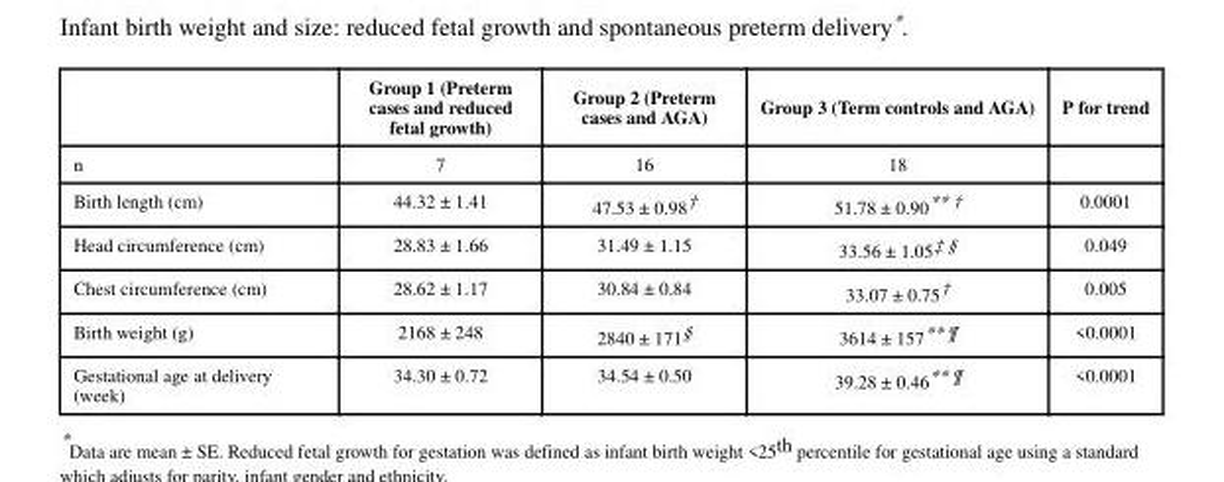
<table><thead><tr><td></td><td>Group 1 (Preterm cases and reduced fetal growth)</td><td>Group 2 (Preterm cases and AGA)</td><td>Group 3 (Term controls and AGA)</td><td>P for trend</td></tr></thead><tbody><tr><td>n</td><td>7</td><td>16</td><td>18</td><td></td></tr><tr><td>Birth length (cm)</td><td>44.32 ± 1.41</td><td>47.53 ± 0.98†</td><td>51.78 ± 0.90** †</td><td>0.0001</td></tr><tr><td>Head circumference (cm)</td><td>28.83 ± 1.66</td><td>31.49 ± 1.15</td><td>33.56 ± 1.05‡ §</td><td>0.049</td></tr><tr><td>Chest circumference (cm)</td><td>28.62 ± 1.17</td><td>30.84 ± 0.84</td><td>33.07 ± 0.75†</td><td>0.005</td></tr><tr><td>Birth weight (g)</td><td>2168 ± 248</td><td>2840 ± 171§</td><td>3614 ± 157** ¶</td><td>&lt;0.0001</td></tr><tr><td>Gestational age at delivery (week)</td><td>34.30 ± 0.72</td><td>34.54 ± 0.50</td><td>39.28 ± 0.46** ¶</td><td>&lt;0.0001</td></tr></tbody></table>